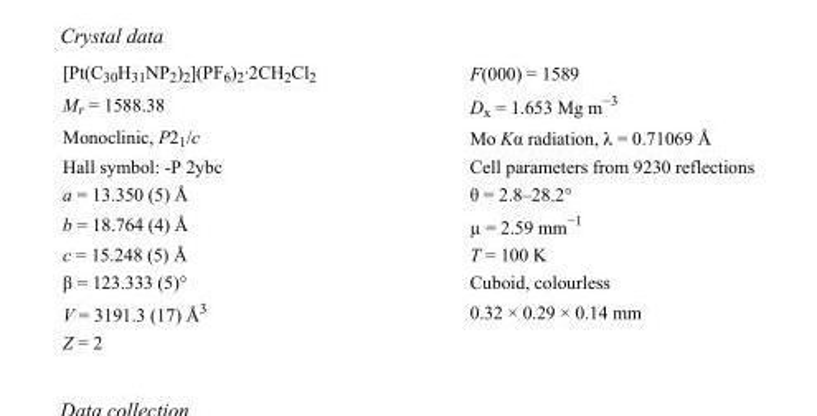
<table><tbody><tr><td>[Pt(C<sub>30</sub>H<sub>31</sub>NP<sub>2</sub>)<sub>2</sub>](PF<sub>6</sub>)<sub>2</sub>·2CH<sub>2</sub>Cl<sub>2</sub></td><td>F(000) = 1589</td></tr><tr><td>M<sub>r</sub> = 1588.38</td><td>D<sub>x</sub> = 1.653 Mg m<sup>−3</sup></td></tr><tr><td>Monoclinic, P2<sub>1</sub>/c</td><td>Mo Kα radiation, λ = 0.71069 Å</td></tr><tr><td>Hall symbol: -P 2ybc</td><td>Cell parameters from 9230 reflections</td></tr><tr><td>a = 13.350 (5) Å</td><td>θ = 2.8–28.2°</td></tr><tr><td>b = 18.764 (4) Å</td><td>µ = 2.59 mm<sup>−1</sup></td></tr><tr><td>c = 15.248 (5) Å</td><td>T = 100 K</td></tr><tr><td>β = 123.333 (5)°</td><td>Cuboid, colourless</td></tr><tr><td>V = 3191.3 (17) Å<sup>3</sup></td><td>0.32 × 0.29 × 0.14 mm</td></tr><tr><td>Z = 2</td><td></td></tr></tbody></table>